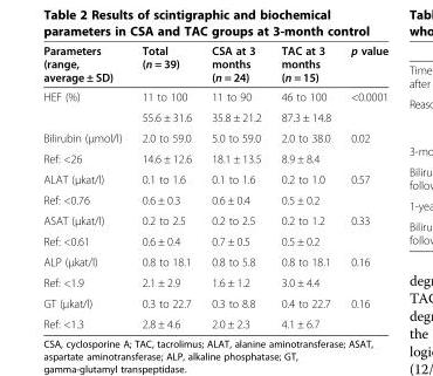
<table><thead><tr><td>Parameters (range, average ± SD)</td><td>Total (n = 39)</td><td>CSA at 3 months (n = 24)</td><td>TAC at 3 months (n = 15)</td><td>p value</td></tr></thead><tbody><tr><td rowspan="2">HEF (%)</td><td>11 to 100</td><td>11 to 90</td><td>46 to 100</td><td rowspan="2">&lt;0.0001</td></tr><tr><td>55.6 ± 31.6</td><td>35.8 ± 21.2</td><td>87.3 ± 14.8</td></tr><tr><td>Bilirubin (μmol/l)</td><td>2.0 to 59.0</td><td>5.0 to 59.0</td><td>2.0 to 38.0</td><td rowspan="2">0.02</td></tr><tr><td>Ref: &lt;26</td><td>14.6 ± 12.6</td><td>18.1 ± 13.5</td><td>8.9 ± 8.4</td></tr><tr><td>ALAT (μkat/l)</td><td>0.1 to 1.6</td><td>0.1 to 1.6</td><td>0.2 to 1.0</td><td rowspan="2">0.57</td></tr><tr><td>Ref: &lt;0.76</td><td>0.6 ± 0.3</td><td>0.6 ± 0.4</td><td>0.5 ± 0.2</td></tr><tr><td>ASAT (μkat/l)</td><td>0.2 to 2.5</td><td>0.2 to 2.5</td><td>0.2 to 1.2</td><td rowspan="2">0.33</td></tr><tr><td>Ref: &lt;0.61</td><td>0.6 ± 0.4</td><td>0.7 ± 0.5</td><td>0.5 ± 0.2</td></tr><tr><td>ALP (μkat/l)</td><td>0.8 to 18.1</td><td>0.8 to 5.8</td><td>0.8 to 18.1</td><td rowspan="2">0.16</td></tr><tr><td>Ref: &lt;1.9</td><td>2.1 ± 2.9</td><td>1.6 ± 1.2</td><td>3.0 ± 4.4</td></tr><tr><td>GT (μkat/l)</td><td>0.3 to 22.7</td><td>0.3 to 8.8</td><td>0.4 to 22.7</td><td rowspan="2">0.16</td></tr><tr><td>Ref: &lt;1.3</td><td>2.8 ± 4.6</td><td>2.0 ± 2.3</td><td>4.1 ± 6.7</td></tr></tbody></table>